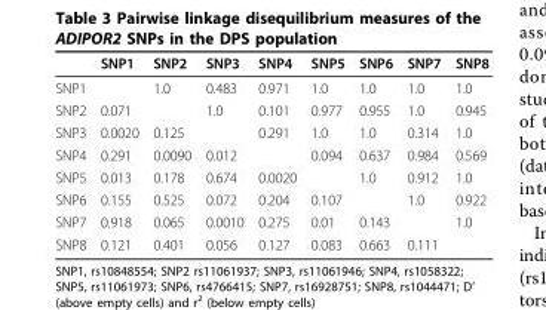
<table><thead><tr><td></td><td>SNP1</td><td>SNP2</td><td>SNP3</td><td>SNP4</td><td>SNP5</td><td>SNP6</td><td>SNP7</td><td>SNP8</td></tr></thead><tbody><tr><td>SNP1</td><td></td><td>1.0</td><td>0.483</td><td>0.971</td><td>1.0</td><td>1.0</td><td>1.0</td><td>1.0</td></tr><tr><td>SNP2</td><td>0.071</td><td></td><td>1.0</td><td>0.101</td><td>0.977</td><td>0.955</td><td>1.0</td><td>0.945</td></tr><tr><td>SNP3</td><td>0.0020</td><td>0.125</td><td></td><td>0.291</td><td>1.0</td><td>1.0</td><td>0.314</td><td>1.0</td></tr><tr><td>SNP4</td><td>0.291</td><td>0.0090</td><td>0.012</td><td></td><td>0.094</td><td>0.637</td><td>0.984</td><td>0.569</td></tr><tr><td>SNP5</td><td>0.013</td><td>0.178</td><td>0.674</td><td>0.0020</td><td></td><td>1.0</td><td>0.912</td><td>1.0</td></tr><tr><td>SNP6</td><td>0.155</td><td>0.525</td><td>0.072</td><td>0.204</td><td>0.107</td><td></td><td>1.0</td><td>0.922</td></tr><tr><td>SNP7</td><td>0.918</td><td>0.065</td><td>0.0010</td><td>0.275</td><td>0.01</td><td>0.143</td><td></td><td>1.0</td></tr><tr><td>SNP8</td><td>0.121</td><td>0.401</td><td>0.056</td><td>0.127</td><td>0.083</td><td>0.663</td><td>0.111</td><td></td></tr></tbody></table>